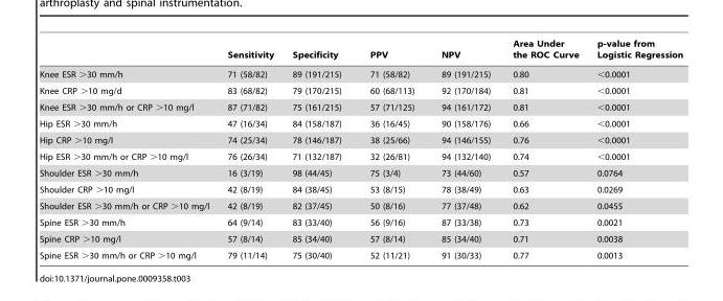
<table><thead><tr><td></td><td>Sensitivity</td><td>Specificity</td><td>PPV</td><td>NPV</td><td>Area Under the ROC Curve</td><td>p-value from Logistic Regression</td></tr></thead><tbody><tr><td>Knee ESR &gt;30 mm/h</td><td>71 (58/82)</td><td>89 (191/215)</td><td>71 (58/82)</td><td>89 (191/215)</td><td>0.80</td><td>&lt;0.0001</td></tr><tr><td>Knee CRP &gt;10 mg/d</td><td>83 (68/82)</td><td>79 (170/215)</td><td>60 (68/113)</td><td>92 (170/184)</td><td>0.81</td><td>&lt;0.0001</td></tr><tr><td>Knee ESR &gt;30 mm/h or CRP &gt;10 mg/l</td><td>87 (71/82)</td><td>75 (161/215)</td><td>57 (71/125)</td><td>94 (161/172)</td><td>0.81</td><td>&lt;0.0001</td></tr><tr><td>Hip ESR &gt;30 mm/h</td><td>47 (16/34)</td><td>84 (158/187)</td><td>36 (16/45)</td><td>90 (158/176)</td><td>0.66</td><td>&lt;0.0001</td></tr><tr><td>Hip CRP &gt;10 mg/l</td><td>74 (25/34)</td><td>78 (146/187)</td><td>38 (25/66)</td><td>94 (146/155)</td><td>0.76</td><td>&lt;0.0001</td></tr><tr><td>Hip ESR &gt;30 mm/h or CRP &gt;10 mg/l</td><td>76 (26/34)</td><td>71 (132/187)</td><td>32 (26/81)</td><td>94 (132/140)</td><td>0.74</td><td>&lt;0.0001</td></tr><tr><td>Shoulder ESR &gt;30 mm/h</td><td>16 (3/19)</td><td>98 (44/45)</td><td>75 (3/4)</td><td>73 (44/60)</td><td>0.57</td><td>0.0764</td></tr><tr><td>Shoulder CRP &gt;10 mg/l</td><td>42 (8/19)</td><td>84 (38/45)</td><td>53 (8/15)</td><td>78 (38/49)</td><td>0.63</td><td>0.0269</td></tr><tr><td>Shoulder ESR &gt;30 mm/h or CRP &gt;10 mg/l</td><td>42 (8/19)</td><td>82 (37/45)</td><td>50 (8/16)</td><td>77 (37/48)</td><td>0.62</td><td>0.0455</td></tr><tr><td>Spine ESR &gt;30 mm/h</td><td>64 (9/14)</td><td>83 (33/40)</td><td>56 (9/16)</td><td>87 (33/38)</td><td>0.73</td><td>0.0021</td></tr><tr><td>Spine CRP &gt;10 mg/l</td><td>57 (8/14)</td><td>85 (34/40)</td><td>57 (8/14)</td><td>85 (34/40)</td><td>0.71</td><td>0.0038</td></tr><tr><td>Spine ESR &gt;30 mm/h or CRP &gt;10 mg/l</td><td>79 (11/14)</td><td>75 (30/40)</td><td>52 (11/21)</td><td>91 (30/33)</td><td>0.77</td><td>0.0013</td></tr></tbody></table>